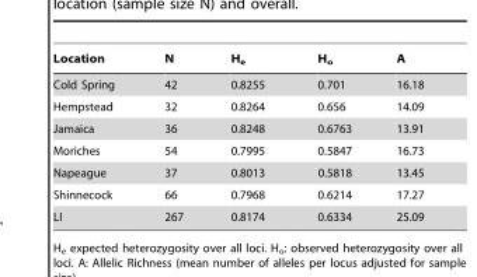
<table><thead><tr><td>Location</td><td>N</td><td>H<sub>e</sub></td><td>H<sub>o</sub></td><td>A</td></tr></thead><tbody><tr><td>Cold Spring</td><td>42</td><td>0.8255</td><td>0.701</td><td>16.18</td></tr><tr><td>Hempstead</td><td>32</td><td>0.8264</td><td>0.656</td><td>14.09</td></tr><tr><td>Jamaica</td><td>36</td><td>0.8248</td><td>0.6763</td><td>13.91</td></tr><tr><td>Moriches</td><td>54</td><td>0.7995</td><td>0.5847</td><td>16.73</td></tr><tr><td>Napeague</td><td>37</td><td>0.8013</td><td>0.5818</td><td>13.45</td></tr><tr><td>Shinnecock</td><td>66</td><td>0.7968</td><td>0.6214</td><td>17.27</td></tr><tr><td>LI</td><td>267</td><td>0.8174</td><td>0.6334</td><td>25.09</td></tr></tbody></table>